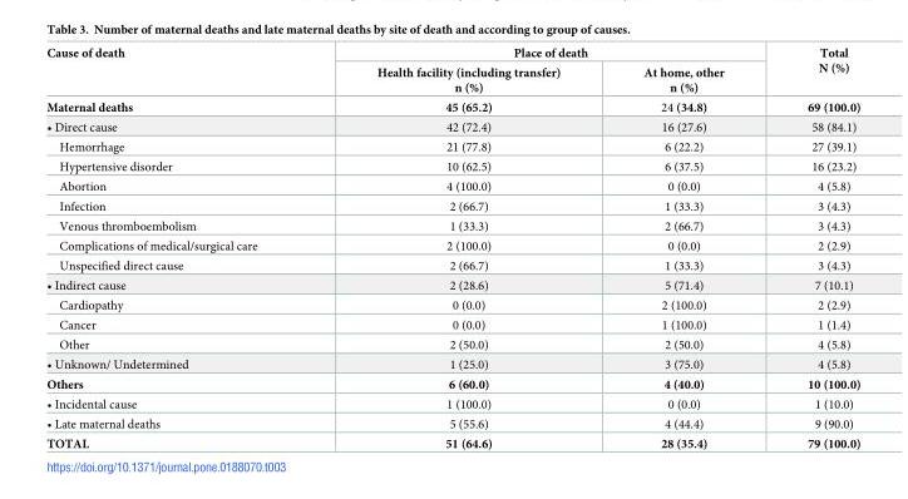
<table><thead><tr><td rowspan="2">Cause of death</td><td colspan="2">Place of death</td><td rowspan="2">Total N (%)</td></tr><tr><td>Health facility (including transfer) n (%)</td><td>At home, other n (%)</td></tr></thead><tbody><tr><td>Maternal deaths</td><td>45 (65.2)</td><td>24 (34.8)</td><td>69 (100.0)</td></tr><tr><td>• Direct cause</td><td>42 (72.4)</td><td>16 (27.6)</td><td>58 (84.1)</td></tr><tr><td>Hemorrhage</td><td>21 (77.8)</td><td>6 (22.2)</td><td>27 (39.1)</td></tr><tr><td>Hypertensive disorder</td><td>10 (62.5)</td><td>6 (37.5)</td><td>16 (23.2)</td></tr><tr><td>Abortion</td><td>4 (100.0)</td><td>0 (0.0)</td><td>4 (5.8)</td></tr><tr><td>Infection</td><td>2 (66.7)</td><td>1 (33.3)</td><td>3 (4.3)</td></tr><tr><td>Venous thromboembolism</td><td>1 (33.3)</td><td>2 (66.7)</td><td>3 (4.3)</td></tr><tr><td>Complications of medical/surgical care</td><td>2 (100.0)</td><td>0 (0.0)</td><td>2 (2.9)</td></tr><tr><td>Unspecified direct cause</td><td>2 (66.7)</td><td>1 (33.3)</td><td>3 (4.3)</td></tr><tr><td>• Indirect cause</td><td>2 (28.6)</td><td>5 (71.4)</td><td>7 (10.1)</td></tr><tr><td>Cardiopathy</td><td>0 (0.0)</td><td>2 (100.0)</td><td>2 (2.9)</td></tr><tr><td>Cancer</td><td>0 (0.0)</td><td>1 (100.0)</td><td>1 (1.4)</td></tr><tr><td>Other</td><td>2 (50.0)</td><td>2 (50.0)</td><td>4 (5.8)</td></tr><tr><td>• Unknown/ Undetermined</td><td>1 (25.0)</td><td>3 (75.0)</td><td>4 (5.8)</td></tr><tr><td>Others</td><td>6 (60.0)</td><td>4 (40.0)</td><td>10 (100.0)</td></tr><tr><td>• Incidental cause</td><td>1 (100.0)</td><td>0 (0.0)</td><td>1 (10.0)</td></tr><tr><td>• Late maternal deaths</td><td>5 (55.6)</td><td>4 (44.4)</td><td>9 (90.0)</td></tr><tr><td>TOTAL</td><td>51 (64.6)</td><td>28 (35.4)</td><td>79 (100.0)</td></tr></tbody></table>